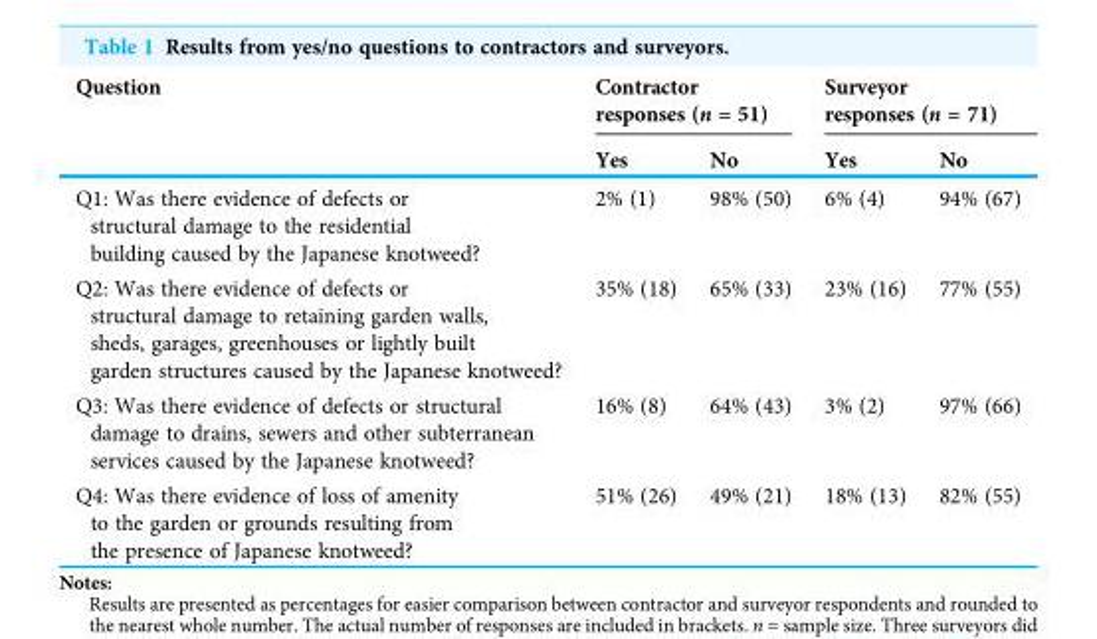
<table><thead><tr><td rowspan="2">Question</td><td colspan="2">Contractor responses (n = 51)</td><td colspan="2">Surveyor responses (n = 71)</td></tr><tr><td>Yes</td><td>No</td><td>Yes</td><td>No</td></tr></thead><tbody><tr><td>Q1: Was there evidence of defects or structural damage to the residential building caused by the Japanese knotweed?</td><td>2% (1)</td><td>98% (50)</td><td>6% (4)</td><td>94% (67)</td></tr><tr><td>Q2: Was there evidence of defects or structural damage to retaining garden walls, sheds, garages, greenhouses or lightly built garden structures caused by the Japanese knotweed?</td><td>35% (18)</td><td>65% (33)</td><td>23% (16)</td><td>77% (55)</td></tr><tr><td>Q3: Was there evidence of defects or structural damage to drains, sewers and other subterranean services caused by the Japanese knotweed?</td><td>16% (8)</td><td>64% (43)</td><td>3% (2)</td><td>97% (66)</td></tr><tr><td>Q4: Was there evidence of loss of amenity to the garden or grounds resulting from the presence of Japanese knotweed?</td><td>51% (26)</td><td>49% (21)</td><td>18% (13)</td><td>82% (55)</td></tr></tbody></table>